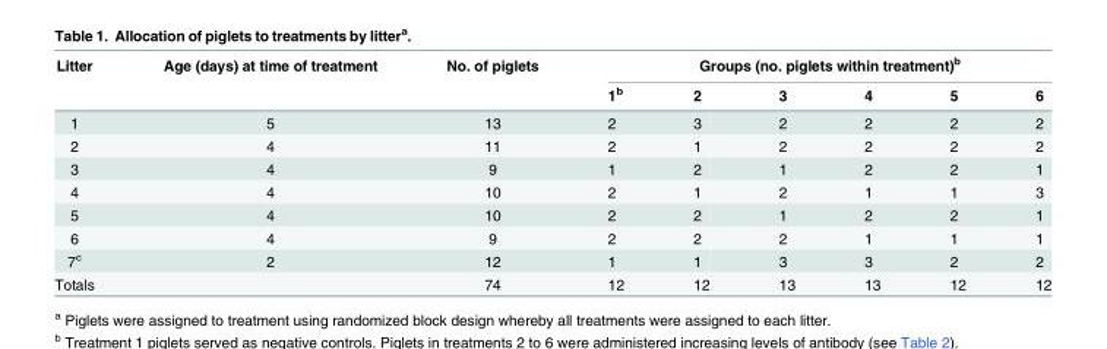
<table><thead><tr><td rowspan="2">Litter</td><td rowspan="2">Age (days) at time of treatment</td><td rowspan="2">No. of piglets</td><td colspan="6">Groups (no. piglets within treatment)<sup>b</sup></td></tr><tr><td>1<sup>b</sup></td><td>2</td><td>3</td><td>4</td><td>5</td><td>6</td></tr></thead><tbody><tr><td>1</td><td>5</td><td>13</td><td>2</td><td>3</td><td>2</td><td>2</td><td>2</td><td>2</td></tr><tr><td>2</td><td>4</td><td>11</td><td>2</td><td>1</td><td>2</td><td>2</td><td>2</td><td>2</td></tr><tr><td>3</td><td>4</td><td>9</td><td>1</td><td>2</td><td>1</td><td>2</td><td>2</td><td>1</td></tr><tr><td>4</td><td>4</td><td>10</td><td>2</td><td>1</td><td>2</td><td>1</td><td>1</td><td>3</td></tr><tr><td>5</td><td>4</td><td>10</td><td>2</td><td>2</td><td>1</td><td>2</td><td>2</td><td>1</td></tr><tr><td>6</td><td>4</td><td>9</td><td>2</td><td>2</td><td>2</td><td>1</td><td>1</td><td>1</td></tr><tr><td>7<sup>c</sup></td><td>2</td><td>12</td><td>1</td><td>1</td><td>3</td><td>3</td><td>2</td><td>2</td></tr><tr><td>Totals</td><td></td><td>74</td><td>12</td><td>12</td><td>13</td><td>13</td><td>12</td><td>12</td></tr></tbody></table>